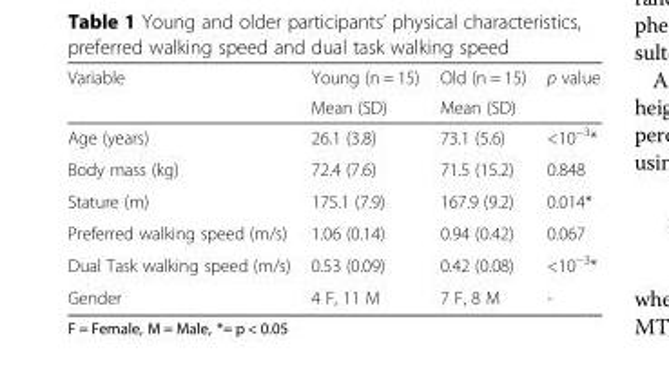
<table><thead><tr><td rowspan="2">Variable</td><td rowspan="2">Young (n = 15) Mean (SD)</td><td rowspan="2">Old (n = 15) Mean (SD)</td><td rowspan="2">p value</td></tr><tr></tr></thead><tbody><tr><td>Age (years)</td><td>26.1 (3.8)</td><td>73.1 (5.6)</td><td>&lt;10<sup>−3</sup>*</td></tr><tr><td>Body mass (kg)</td><td>72.4 (7.6)</td><td>71.5 (15.2)</td><td>0.848</td></tr><tr><td>Stature (m)</td><td>175.1 (7.9)</td><td>167.9 (9.2)</td><td>0.014*</td></tr><tr><td>Preferred walking speed (m/s)</td><td>1.06 (0.14)</td><td>0.94 (0.42)</td><td>0.067</td></tr><tr><td>Dual Task walking speed (m/s)</td><td>0.53 (0.09)</td><td>0.42 (0.08)</td><td>&lt;10<sup>−3</sup>*</td></tr><tr><td>Gender</td><td>4 F, 11 M</td><td>7 F, 8 M</td><td>-</td></tr></tbody></table>